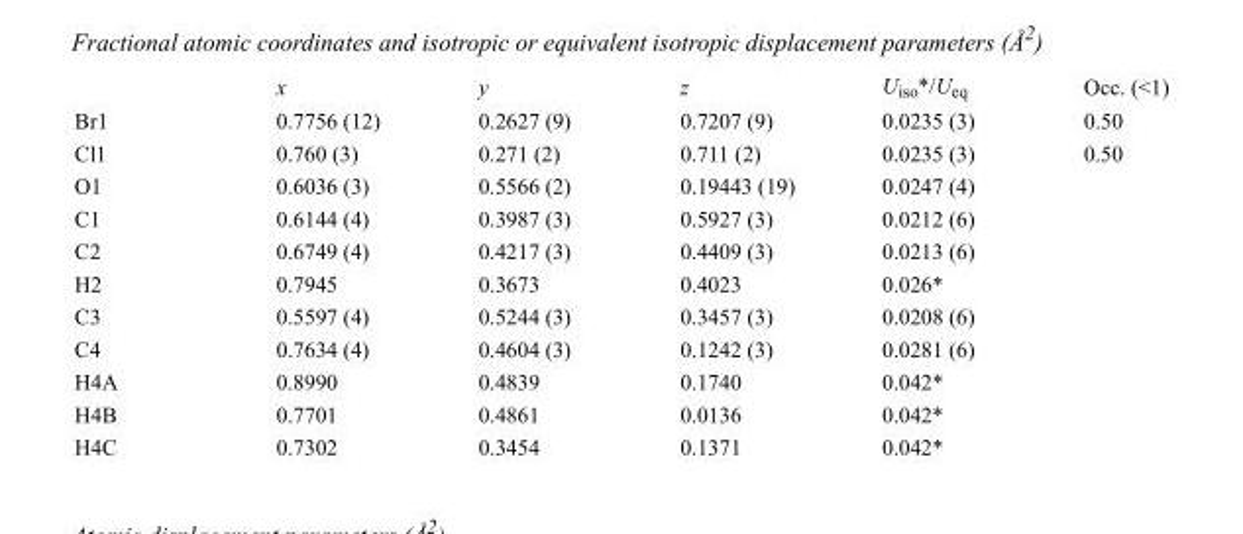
<table><thead><tr><td></td><td>x</td><td>y</td><td>z</td><td>U<sub>iso</sub>*/U<sub>eq</sub></td><td>Occ. (&lt;1)</td></tr></thead><tbody><tr><td>Br1</td><td>0.7756 (12)</td><td>0.2627 (9)</td><td>0.7207 (9)</td><td>0.0235 (3)</td><td>0.50</td></tr><tr><td>Cl1</td><td>0.760 (3)</td><td>0.271 (2)</td><td>0.711 (2)</td><td>0.0235 (3)</td><td>0.50</td></tr><tr><td>O1</td><td>0.6036 (3)</td><td>0.5566 (2)</td><td>0.19443 (19)</td><td>0.0247 (4)</td><td></td></tr><tr><td>C1</td><td>0.6144 (4)</td><td>0.3987 (3)</td><td>0.5927 (3)</td><td>0.0212 (6)</td><td></td></tr><tr><td>C2</td><td>0.6749 (4)</td><td>0.4217 (3)</td><td>0.4409 (3)</td><td>0.0213 (6)</td><td></td></tr><tr><td>H2</td><td>0.7945</td><td>0.3673</td><td>0.4023</td><td>0.026*</td><td></td></tr><tr><td>C3</td><td>0.5597 (4)</td><td>0.5244 (3)</td><td>0.3457 (3)</td><td>0.0208 (6)</td><td></td></tr><tr><td>C4</td><td>0.7634 (4)</td><td>0.4604 (3)</td><td>0.1242 (3)</td><td>0.0281 (6)</td><td></td></tr><tr><td>H4A</td><td>0.8990</td><td>0.4839</td><td>0.1740</td><td>0.042*</td><td></td></tr><tr><td>H4B</td><td>0.7701</td><td>0.4861</td><td>0.0136</td><td>0.042*</td><td></td></tr><tr><td>H4C</td><td>0.7302</td><td>0.3454</td><td>0.1371</td><td>0.042*</td><td></td></tr></tbody></table>